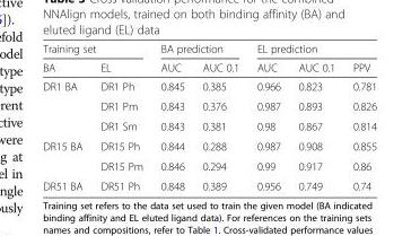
<table><thead><tr><td colspan="2">Training set</td><td colspan="2">BA prediction</td><td colspan="3">EL prediction</td></tr><tr><td>BA</td><td>EL</td><td>AUC</td><td>AUC 0.1</td><td>AUC</td><td>AUC 0.1</td><td>PPV</td></tr></thead><tbody><tr><td rowspan="3">DR1 BA</td><td>DR1 Ph</td><td>0.845</td><td>0.385</td><td>0.966</td><td>0.823</td><td>0.781</td></tr><tr><td>DR1 Pm</td><td>0.843</td><td>0.376</td><td>0.987</td><td>0.893</td><td>0.826</td></tr><tr><td>DR1 Sm</td><td>0.843</td><td>0.381</td><td>0.98</td><td>0.867</td><td>0.814</td></tr><tr><td rowspan="2">DR15 BA</td><td>DR15 Ph</td><td>0.844</td><td>0.288</td><td>0.987</td><td>0.908</td><td>0.855</td></tr><tr><td>DR15 Pm</td><td>0.846</td><td>0.294</td><td>0.99</td><td>0.917</td><td>0.86</td></tr><tr><td>DR51 BA</td><td>DR51 Ph</td><td>0.848</td><td>0.389</td><td>0.956</td><td>0.749</td><td>0.74</td></tr></tbody></table>